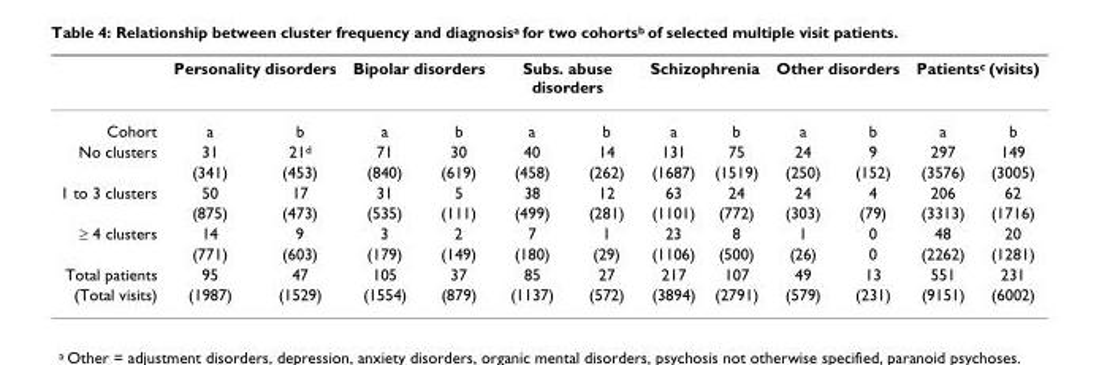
<table><thead><tr><td rowspan="2">Cohort</td><td colspan="2">Personality disorders</td><td colspan="2">Bipolar disorders</td><td colspan="2">Subs. abuse disorders</td><td colspan="2">Schizophrenia</td><td colspan="2">Other disorders</td><td colspan="2">Patients<sup>c</sup> (visits)</td></tr><tr><td>a</td><td>b</td><td>a</td><td>b</td><td>a</td><td>b</td><td>a</td><td>b</td><td>a</td><td>b</td><td>a</td><td>b</td></tr></thead><tbody><tr><td rowspan="2">No clusters</td><td>31</td><td>21<sup>d</sup></td><td>71</td><td>30</td><td>40</td><td>14</td><td>131</td><td>75</td><td>24</td><td>9</td><td>297</td><td>149</td></tr><tr><td>(341)</td><td>(453)</td><td>(840)</td><td>(619)</td><td>(458)</td><td>(262)</td><td>(1687)</td><td>(1519)</td><td>(250)</td><td>(152)</td><td>(3576)</td><td>(3005)</td></tr><tr><td rowspan="2">1 to 3 clusters</td><td>50</td><td>17</td><td>31</td><td>5</td><td>38</td><td>12</td><td>63</td><td>24</td><td>24</td><td>4</td><td>206</td><td>62</td></tr><tr><td>(875)</td><td>(473)</td><td>(535)</td><td>(111)</td><td>(499)</td><td>(281)</td><td>(1101)</td><td>(772)</td><td>(303)</td><td>(79)</td><td>(3313)</td><td>(1716)</td></tr><tr><td rowspan="2">≥ 4 clusters</td><td>14</td><td>9</td><td>3</td><td>2</td><td>7</td><td>1</td><td>23</td><td>8</td><td>1</td><td>0</td><td>48</td><td>20</td></tr><tr><td>(771)</td><td>(603)</td><td>(179)</td><td>(149)</td><td>(180)</td><td>(29)</td><td>(1106)</td><td>(500)</td><td>(26)</td><td>0</td><td>(2262)</td><td>(1281)</td></tr><tr><td>Total patients</td><td>95</td><td>47</td><td>105</td><td>37</td><td>85</td><td>27</td><td>217</td><td>107</td><td>49</td><td>13</td><td>551</td><td>231</td></tr><tr><td>(Total visits)</td><td>(1987)</td><td>(1529)</td><td>(1554)</td><td>(879)</td><td>(1137)</td><td>(572)</td><td>(3894)</td><td>(2791)</td><td>(579)</td><td>(231)</td><td>(9151)</td><td>(6002)</td></tr></tbody></table>